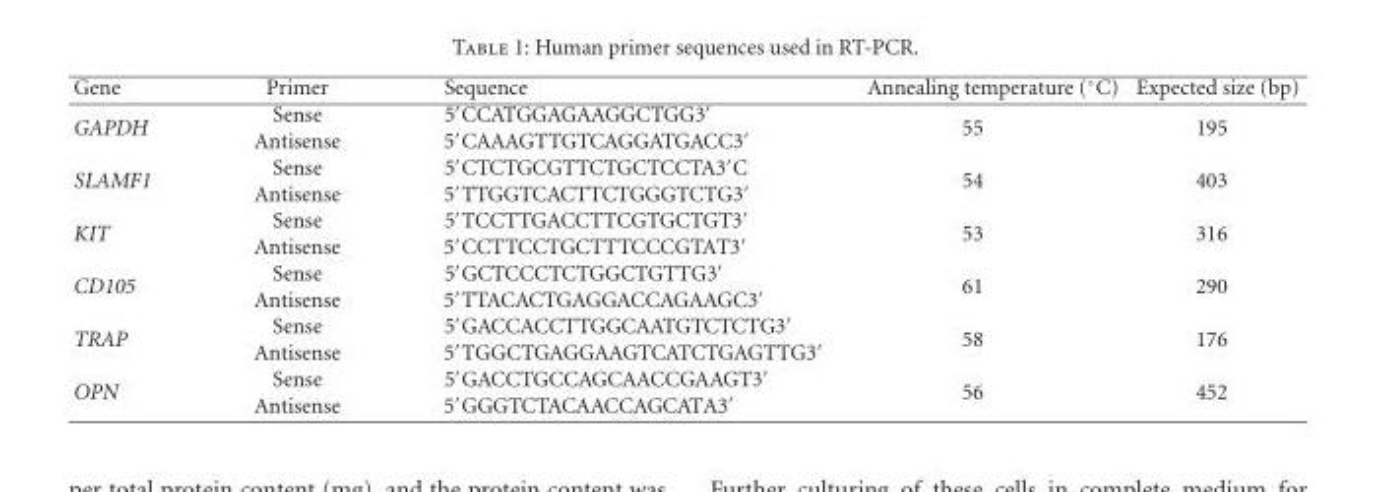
<table><thead><tr><td>Gene</td><td>Primer</td><td>Sequence</td><td>Annealing temperature (◦C)</td><td>Expected size (bp)</td></tr></thead><tbody><tr><td rowspan="2">GAPDH</td><td>Sense</td><td>5′CCATGGAGAAGGCTGG3′</td><td rowspan="2">55</td><td rowspan="2">195</td></tr><tr><td>Antisense</td><td>5′CAAAGTTGTCAGGATGACC3′</td></tr><tr><td rowspan="2">SLAMF1</td><td>Sense</td><td>5′CTCTGCGTTCTGCTCCTA3′C</td><td rowspan="2">54</td><td rowspan="2">403</td></tr><tr><td>Antisense</td><td>5′TTGGTCACTTCTGGGTCTG3′</td></tr><tr><td rowspan="2">KIT</td><td>Sense</td><td>5′TCCTTGACCTTCGTGCTGT3′</td><td rowspan="2">53</td><td rowspan="2">316</td></tr><tr><td>Antisense</td><td>5′CCTTCCTGCTTTCCCGTAT3′</td></tr><tr><td rowspan="2">CD105</td><td>Sense</td><td>5′GCTCCCTCTGGCTGTTG3′</td><td rowspan="2">61</td><td rowspan="2">290</td></tr><tr><td>Antisense</td><td>5′TTACACTGAGGACCAGAAGC3′</td></tr><tr><td rowspan="2">TRAP</td><td>Sense</td><td>5′GACCACCTTGGCAATGTCTCTG3′</td><td rowspan="2">58</td><td rowspan="2">176</td></tr><tr><td>Antisense</td><td>5′TGGCTGAGGAAGTCATCTGAGTTG3′</td></tr><tr><td rowspan="2">OPN</td><td>Sense</td><td>5′GACCTGCCAGCAACCGAAGT3′</td><td rowspan="2">56</td><td rowspan="2">452</td></tr><tr><td>Antisense</td><td>5′GGGTCTACAACCAGCATA3′</td></tr></tbody></table>